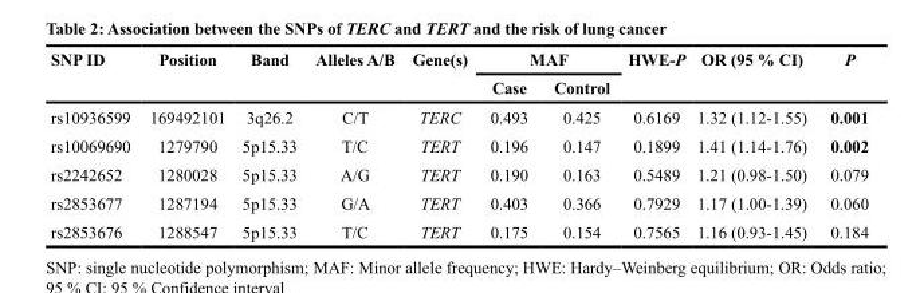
<table><thead><tr><td rowspan="2">SNP ID</td><td rowspan="2">Position</td><td rowspan="2">Band</td><td rowspan="2">Alleles A/B</td><td rowspan="2">Gene(s)</td><td colspan="2">MAF</td><td rowspan="2">HWE-P</td><td rowspan="2">OR (95 % CI)</td><td rowspan="2">P</td></tr><tr><td>Case</td><td>Control</td></tr></thead><tbody><tr><td>rs10936599</td><td>169492101</td><td>3q26.2</td><td>C/T</td><td>TERC</td><td>0.493</td><td>0.425</td><td>0.6169</td><td>1.32 (1.12-1.55)</td><td>0.001</td></tr><tr><td>rs10069690</td><td>1279790</td><td>5p15.33</td><td>T/C</td><td>TERT</td><td>0.196</td><td>0.147</td><td>0.1899</td><td>1.41 (1.14-1.76)</td><td>0.002</td></tr><tr><td>rs2242652</td><td>1280028</td><td>5p15.33</td><td>A/G</td><td>TERT</td><td>0.190</td><td>0.163</td><td>0.5489</td><td>1.21 (0.98-1.50)</td><td>0.079</td></tr><tr><td>rs2853677</td><td>1287194</td><td>5p15.33</td><td>G/A</td><td>TERT</td><td>0.403</td><td>0.366</td><td>0.7929</td><td>1.17 (1.00-1.39)</td><td>0.060</td></tr><tr><td>rs2853676</td><td>1288547</td><td>5p15.33</td><td>T/C</td><td>TERT</td><td>0.175</td><td>0.154</td><td>0.7565</td><td>1.16 (0.93-1.45)</td><td>0.184</td></tr></tbody></table>